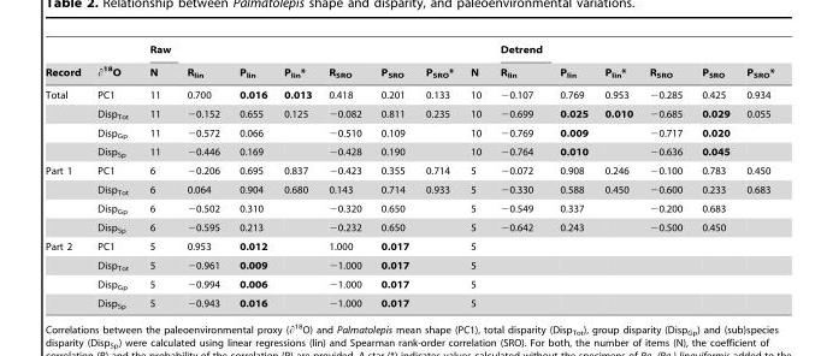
<table><thead><tr><td rowspan="2">Record</td><td rowspan="2">∂<sup>18</sup>O</td><td rowspan="2">Raw N</td><td rowspan="2">R<sub>lin</sub></td><td rowspan="2">P<sub>lin</sub></td><td rowspan="2">P<sub>lin</sub>*</td><td rowspan="2">R<sub>SRO</sub></td><td rowspan="2">P<sub>SRO</sub></td><td rowspan="2">P<sub>SRO</sub>*</td><td rowspan="2">N</td><td rowspan="2">Detrend R<sub>lin</sub></td><td rowspan="2">Plin</td><td rowspan="2">P<sub>lin</sub>*</td><td rowspan="2">R<sub>SRO</sub></td><td rowspan="2">P<sub>SRO</sub></td><td rowspan="2">P<sub>SRO</sub>*</td></tr><tr></tr></thead><tbody><tr><td rowspan="4">Total</td><td>PC1</td><td>11</td><td>0.700</td><td>0.016</td><td>0.013</td><td>0.418</td><td>0.201</td><td>0.133</td><td>10</td><td>−0.107</td><td>0.769</td><td>0.953</td><td>−0.285</td><td>0.425</td><td>0.934</td></tr><tr><td>Disp<sub>Tot</sub></td><td>11</td><td>−0.152</td><td>0.655</td><td>0.125</td><td>−0.082</td><td>0.811</td><td>0.235</td><td>10</td><td>−0.699</td><td>0.025</td><td>0.010</td><td>−0.685</td><td>0.029</td><td>0.055</td></tr><tr><td>Disp<sub>Gp</sub></td><td>11</td><td>−0.572</td><td>0.066</td><td></td><td>−0.510</td><td>0.109</td><td></td><td>10</td><td>−0.769</td><td>0.009</td><td></td><td>−0.717</td><td>0.020</td><td></td></tr><tr><td>Disp<sub>Sp</sub></td><td>11</td><td>−0.446</td><td>0.169</td><td></td><td>−0.428</td><td>0.190</td><td></td><td>10</td><td>−0.764</td><td>0.010</td><td></td><td>−0.636</td><td>0.045</td><td></td></tr><tr><td rowspan="4">Part 1</td><td>PC1</td><td>6</td><td>−0.206</td><td>0.695</td><td>0.837</td><td>−0.423</td><td>0.355</td><td>0.714</td><td>5</td><td>−0.072</td><td>0.908</td><td>0.246</td><td>−0.100</td><td>0.783</td><td>0.450</td></tr><tr><td>Disp<sub>Tot</sub></td><td>6</td><td>0.064</td><td>0.904</td><td>0.680</td><td>0.143</td><td>0.714</td><td>0.933</td><td>5</td><td>−0.330</td><td>0.588</td><td>0.450</td><td>−0.600</td><td>0.233</td><td>0.683</td></tr><tr><td>Disp<sub>Gp</sub></td><td>6</td><td>−0.502</td><td>0.310</td><td></td><td>−0.320</td><td>0.650</td><td></td><td>5</td><td>−0.549</td><td>0.337</td><td></td><td>−0.200</td><td>0.683</td><td></td></tr><tr><td>Disp<sub>Sp</sub></td><td>6</td><td>−0.595</td><td>0.213</td><td></td><td>−0.232</td><td>0.650</td><td></td><td>5</td><td>−0.642</td><td>0.243</td><td></td><td>−0.500</td><td>0.450</td><td></td></tr><tr><td rowspan="4">Part 2</td><td>PC1</td><td>5</td><td>0.953</td><td>0.012</td><td></td><td>1.000</td><td>0.017</td><td></td><td>5</td><td></td><td></td><td></td><td></td><td></td><td></td></tr><tr><td>Disp<sub>Tot</sub></td><td>5</td><td>−0.961</td><td>0.009</td><td></td><td>−1.000</td><td>0.017</td><td></td><td>5</td><td></td><td></td><td></td><td></td><td></td><td></td></tr><tr><td>Disp<sub>Gp</sub></td><td>5</td><td>−0.994</td><td>0.006</td><td></td><td>−1.000</td><td>0.017</td><td></td><td>5</td><td></td><td></td><td></td><td></td><td></td><td></td></tr><tr><td>Disp<sub>Sp</sub></td><td>5</td><td>−0.943</td><td>0.016</td><td></td><td>−1.000</td><td>0.017</td><td></td><td>5</td><td></td><td></td><td></td><td></td><td></td><td></td></tr></tbody></table>